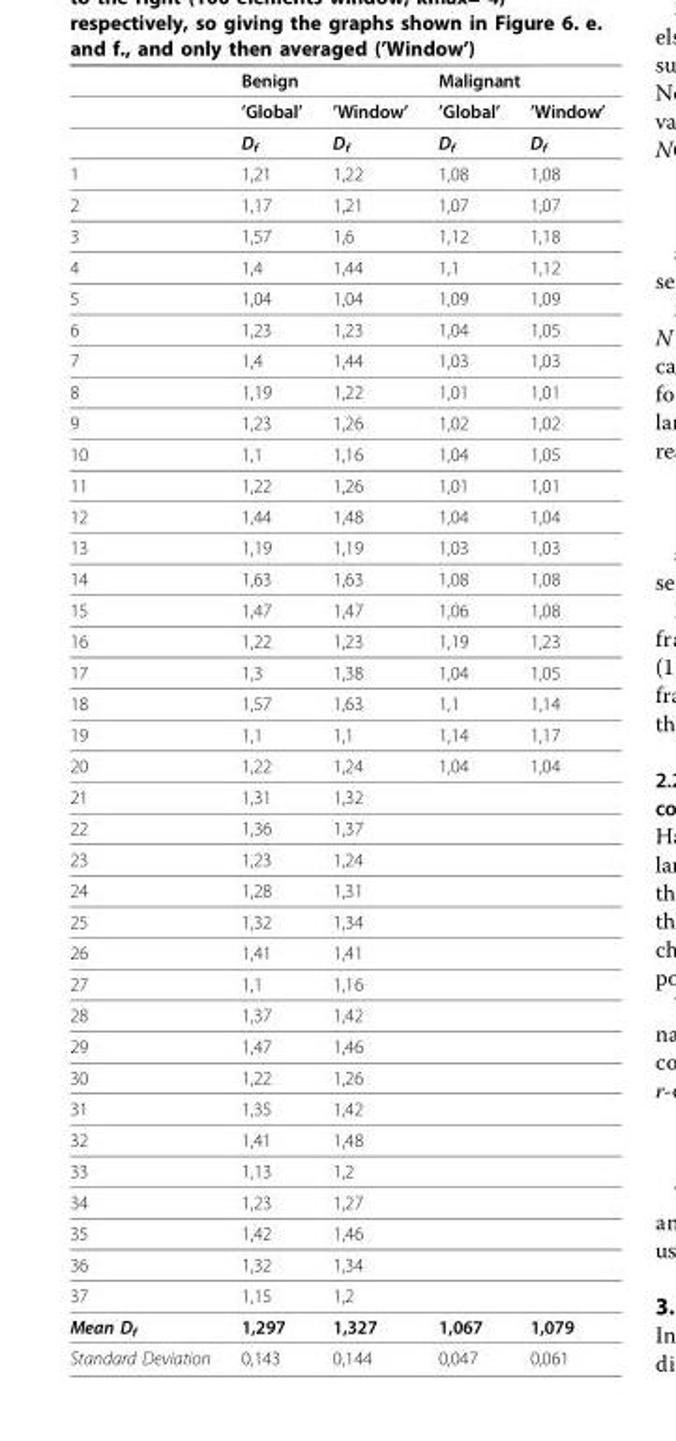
<table><thead><tr><td rowspan="2"></td><td colspan="2">Benign</td><td colspan="2">Malignant</td></tr><tr><td>’Global’</td><td>’Window’</td><td>’Global’</td><td>’Window’</td></tr></thead><tbody><tr><td></td><td>D<sub>f</sub></td><td>D<sub>f</sub></td><td>D<sub>f</sub></td><td>D<sub>f</sub></td></tr><tr><td>1</td><td>1,21</td><td>1,22</td><td>1,08</td><td>1,08</td></tr><tr><td>2</td><td>1,17</td><td>1,21</td><td>1,07</td><td>1,07</td></tr><tr><td>3</td><td>1,57</td><td>1,6</td><td>1,12</td><td>1,18</td></tr><tr><td>4</td><td>1,4</td><td>1,44</td><td>1,1</td><td>1,12</td></tr><tr><td>5</td><td>1,04</td><td>1,04</td><td>1,09</td><td>1,09</td></tr><tr><td>6</td><td>1,23</td><td>1,23</td><td>1,04</td><td>1,05</td></tr><tr><td>7</td><td>1,4</td><td>1,44</td><td>1,03</td><td>1,03</td></tr><tr><td>8</td><td>1,19</td><td>1,22</td><td>1,01</td><td>1,01</td></tr><tr><td>9</td><td>1,23</td><td>1,26</td><td>1,02</td><td>1,02</td></tr><tr><td>10</td><td>1,1</td><td>1,16</td><td>1,04</td><td>1,05</td></tr><tr><td>11</td><td>1,22</td><td>1,26</td><td>1,01</td><td>1,01</td></tr><tr><td>12</td><td>1,44</td><td>1,48</td><td>1,04</td><td>1,04</td></tr><tr><td>13</td><td>1,19</td><td>1,19</td><td>1,03</td><td>1,03</td></tr><tr><td>14</td><td>1,63</td><td>1,63</td><td>1,08</td><td>1,08</td></tr><tr><td>15</td><td>1,47</td><td>1,47</td><td>1,06</td><td>1,08</td></tr><tr><td>16</td><td>1,22</td><td>1,23</td><td>1,19</td><td>1,23</td></tr><tr><td>17</td><td>1,3</td><td>1,38</td><td>1,04</td><td>1,05</td></tr><tr><td>18</td><td>1,57</td><td>1,63</td><td>1,1</td><td>1,14</td></tr><tr><td>19</td><td>1,1</td><td>1,1</td><td>1,14</td><td>1,17</td></tr><tr><td>20</td><td>1,22</td><td>1,24</td><td>1,04</td><td>1,04</td></tr><tr><td>21</td><td>1,31</td><td>1,32</td><td></td><td></td></tr><tr><td>22</td><td>1,36</td><td>1,37</td><td></td><td></td></tr><tr><td>23</td><td>1,23</td><td>1,24</td><td></td><td></td></tr><tr><td>24</td><td>1,28</td><td>1,31</td><td></td><td></td></tr><tr><td>25</td><td>1,32</td><td>1,34</td><td></td><td></td></tr><tr><td>26</td><td>1,41</td><td>1,41</td><td></td><td></td></tr><tr><td>27</td><td>1,1</td><td>1,16</td><td></td><td></td></tr><tr><td>28</td><td>1,37</td><td>1,42</td><td></td><td></td></tr><tr><td>29</td><td>1,47</td><td>1,46</td><td></td><td></td></tr><tr><td>30</td><td>1,22</td><td>1,26</td><td></td><td></td></tr><tr><td>31</td><td>1,35</td><td>1,42</td><td></td><td></td></tr><tr><td>32</td><td>1,41</td><td>1,48</td><td></td><td></td></tr><tr><td>33</td><td>1,13</td><td>1,2</td><td></td><td></td></tr><tr><td>34</td><td>1,23</td><td>1,27</td><td></td><td></td></tr><tr><td>35</td><td>1,42</td><td>1,46</td><td></td><td></td></tr><tr><td>36</td><td>1,32</td><td>1,34</td><td></td><td></td></tr><tr><td>37</td><td>1,15</td><td>1,2</td><td></td><td></td></tr><tr><td>Mean D<sub>f</sub></td><td>1,297</td><td>1,327</td><td>1,067</td><td>1,079</td></tr><tr><td>Standard Deviation</td><td>0,143</td><td>0,144</td><td>0,047</td><td>0,061</td></tr></tbody></table>